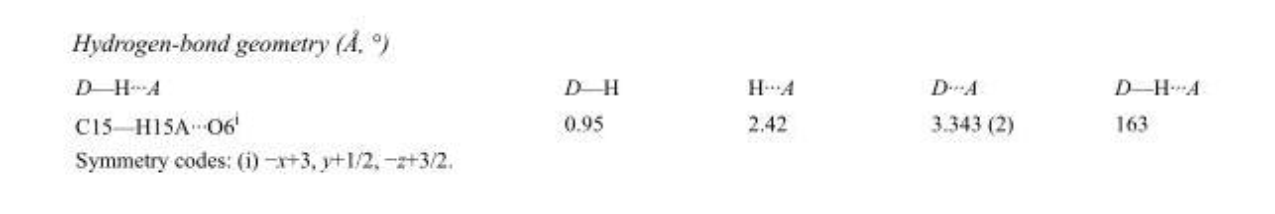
<table><tbody><tr><td>D—H···A</td><td>D—H</td><td>H···A</td><td>D···A</td><td>D—H···A</td></tr><tr><td>C15—H15A···O6<sup>i</sup></td><td>0.95</td><td>2.42</td><td>3.343 (2)</td><td>163</td></tr></tbody></table>